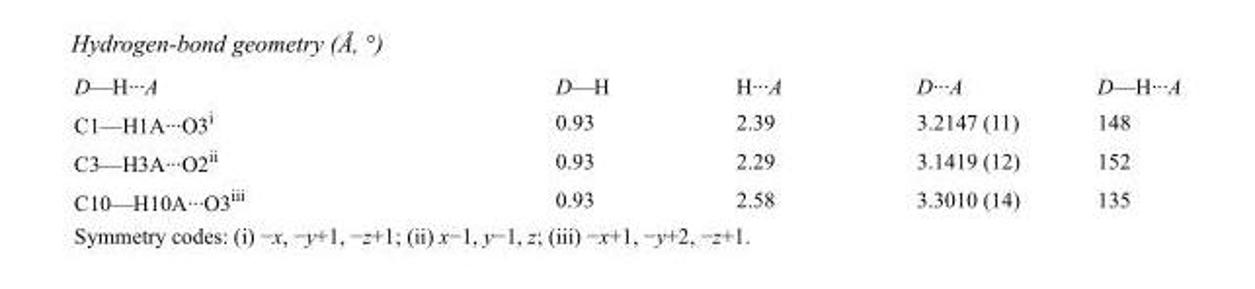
<table><tbody><tr><td>D—H···A</td><td>D—H</td><td>H···A</td><td>D···A</td><td>D—H···A</td></tr><tr><td>C1—H1A···O3<sup>i</sup></td><td>0.93</td><td>2.39</td><td>3.2147 (11)</td><td>148</td></tr><tr><td>C3—H3A···O2<sup>ii</sup></td><td>0.93</td><td>2.29</td><td>3.1419 (12)</td><td>152</td></tr><tr><td>C10—H10A···O3<sup>iii</sup></td><td>0.93</td><td>2.58</td><td>3.3010 (14)</td><td>135</td></tr></tbody></table>